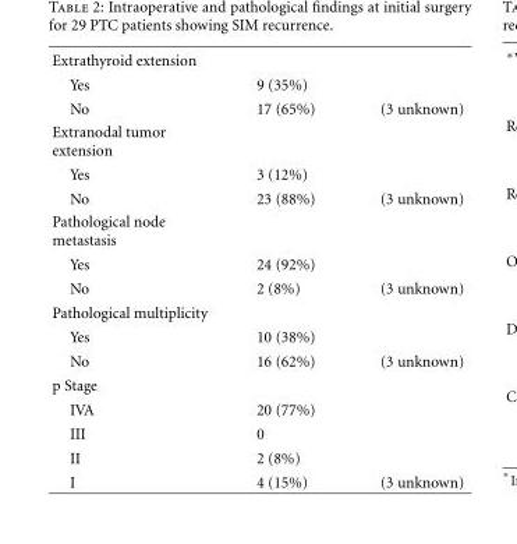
<table><tbody><tr><td colspan="3">Extrathyroid extension</td></tr><tr><td>Yes</td><td>9 (35%)</td><td></td></tr><tr><td>No</td><td>17 (65%)</td><td>(3 unknown)</td></tr><tr><td colspan="3">Extranodal tumor extension</td></tr><tr><td>Yes</td><td>3 (12%)</td><td></td></tr><tr><td>No</td><td>23 (88%)</td><td>(3 unknown)</td></tr><tr><td colspan="3">Pathological node metastasis</td></tr><tr><td>Yes</td><td>24 (92%)</td><td></td></tr><tr><td>No</td><td>2 (8%)</td><td>(3 unknown)</td></tr><tr><td colspan="3">Pathological multiplicity</td></tr><tr><td>Yes</td><td>10 (38%)</td><td></td></tr><tr><td>No</td><td>16 (62%)</td><td>(3 unknown)</td></tr><tr><td colspan="3">p Stage</td></tr><tr><td>IVA</td><td>20 (77%)</td><td></td></tr><tr><td>III</td><td>0</td><td></td></tr><tr><td>II</td><td>2 (8%)</td><td></td></tr><tr><td>I</td><td>4 (15%)</td><td>(3 unknown)</td></tr></tbody></table>